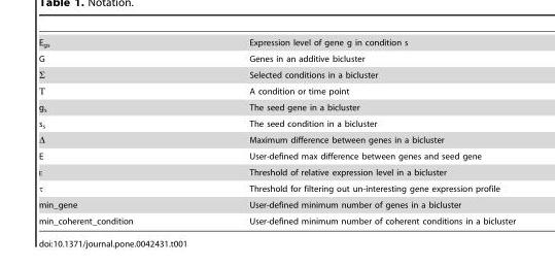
<table><tbody><tr><td>E<sub>gs</sub></td><td>Expression level of gene g in condition s</td></tr><tr><td>G</td><td>Genes in an additive bicluster</td></tr><tr><td>Σ</td><td>Selected conditions in a bicluster</td></tr><tr><td>T</td><td>A condition or time point</td></tr><tr><td>g<sub>s</sub></td><td>The seed gene in a bicluster</td></tr><tr><td>s<sub>s</sub></td><td>The seed condition in a bicluster</td></tr><tr><td>Δ</td><td>Maximum difference between genes in a bicluster</td></tr><tr><td>E</td><td>User-defined max difference between genes and seed gene</td></tr><tr><td>E</td><td>Threshold of relative expression level in a bicluster</td></tr><tr><td>τ</td><td>Threshold for filtering out un-interesting gene expression profile</td></tr><tr><td>min_gene</td><td>User-defined minimum number of genes in a bicluster</td></tr><tr><td>min_coherent_condition</td><td>User-defined minimum number of coherent conditions in a bicluster</td></tr></tbody></table>